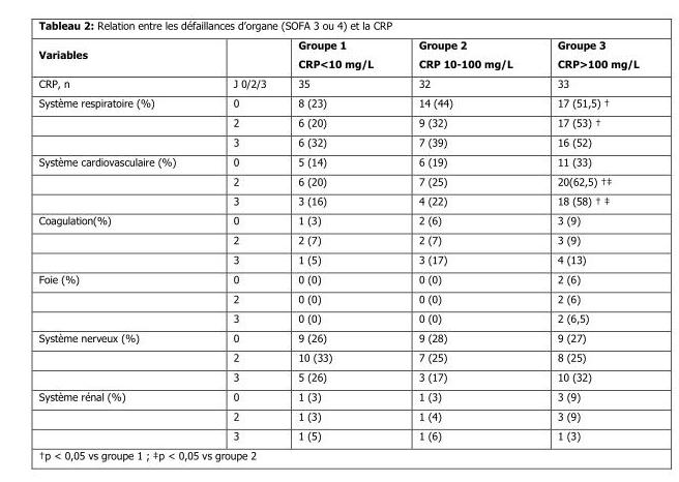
<table><thead><tr><td>Variables</td><td></td><td>Groupe 1 CRP&lt;10 mg/L</td><td>Groupe 2 CRP 10-100 mg/L</td><td>Groupe 3 CRP&gt;100 mg/L</td></tr></thead><tbody><tr><td>CRP, n</td><td>J 0/2/3</td><td>35</td><td>32</td><td>33</td></tr><tr><td rowspan="3">Système respiratoire (%)</td><td>0</td><td>8 (23)</td><td>14 (44)</td><td>17 (51,5) †</td></tr><tr><td>2</td><td>6 (20)</td><td>9 (32)</td><td>17 (53) †</td></tr><tr><td>3</td><td>6 (32)</td><td>7 (39)</td><td>16 (52)</td></tr><tr><td rowspan="3">Système cardiovasculaire (%)</td><td>0</td><td>5 (14)</td><td>6 (19)</td><td>11 (33)</td></tr><tr><td>2</td><td>6 (20)</td><td>7 (25)</td><td>20(62,5) †‡</td></tr><tr><td>3</td><td>3 (16)</td><td>4 (22)</td><td>18 (58) † ‡</td></tr><tr><td rowspan="3">Coagulation(%)</td><td>0</td><td>1 (3)</td><td>2 (6)</td><td>3 (9)</td></tr><tr><td>2</td><td>2 (7)</td><td>2 (7)</td><td>3 (9)</td></tr><tr><td>3</td><td>1 (5)</td><td>3 (17)</td><td>4 (13)</td></tr><tr><td rowspan="3">Foie (%)</td><td>0</td><td>0 (0)</td><td>0 (0)</td><td>2 (6)</td></tr><tr><td>2</td><td>0 (0)</td><td>0 (0)</td><td>2 (6)</td></tr><tr><td>3</td><td>0 (0)</td><td>0 (0)</td><td>2 (6,5)</td></tr><tr><td rowspan="3">Système nerveux (%)</td><td>0</td><td>9 (26)</td><td>9 (28)</td><td>9 (27)</td></tr><tr><td>2</td><td>10 (33)</td><td>7 (25)</td><td>8 (25)</td></tr><tr><td>3</td><td>5 (26)</td><td>3 (17)</td><td>10 (32)</td></tr><tr><td rowspan="3">Système rénal (%)</td><td>0</td><td>1 (3)</td><td>1 (3)</td><td>3 (9)</td></tr><tr><td>2</td><td>1 (3)</td><td>1 (4)</td><td>3 (9)</td></tr><tr><td>3</td><td>1 (5)</td><td>1 (6)</td><td>1 (3)</td></tr></tbody></table>